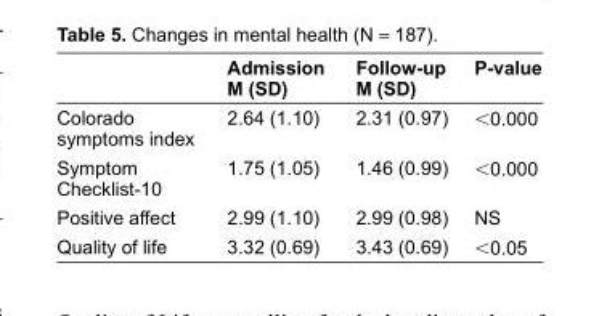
<table><thead><tr><td></td><td>Admission M (sD)</td><td>Follow-up M (sD)</td><td>p-value</td></tr></thead><tbody><tr><td>Colorado symptoms index</td><td>2.64 (1.10)</td><td>2.31 (0.97)</td><td>&lt;0.000</td></tr><tr><td>Symptom Checklist-10</td><td>1.75 (1.05)</td><td>1.46 (0.99)</td><td>&lt;0.000</td></tr><tr><td>Positive affect</td><td>2.99 (1.10)</td><td>2.99 (0.98)</td><td>nS</td></tr><tr><td>Quality of life</td><td>3.32 (0.69)</td><td>3.43 (0.69)</td><td>&lt;0.05</td></tr></tbody></table>